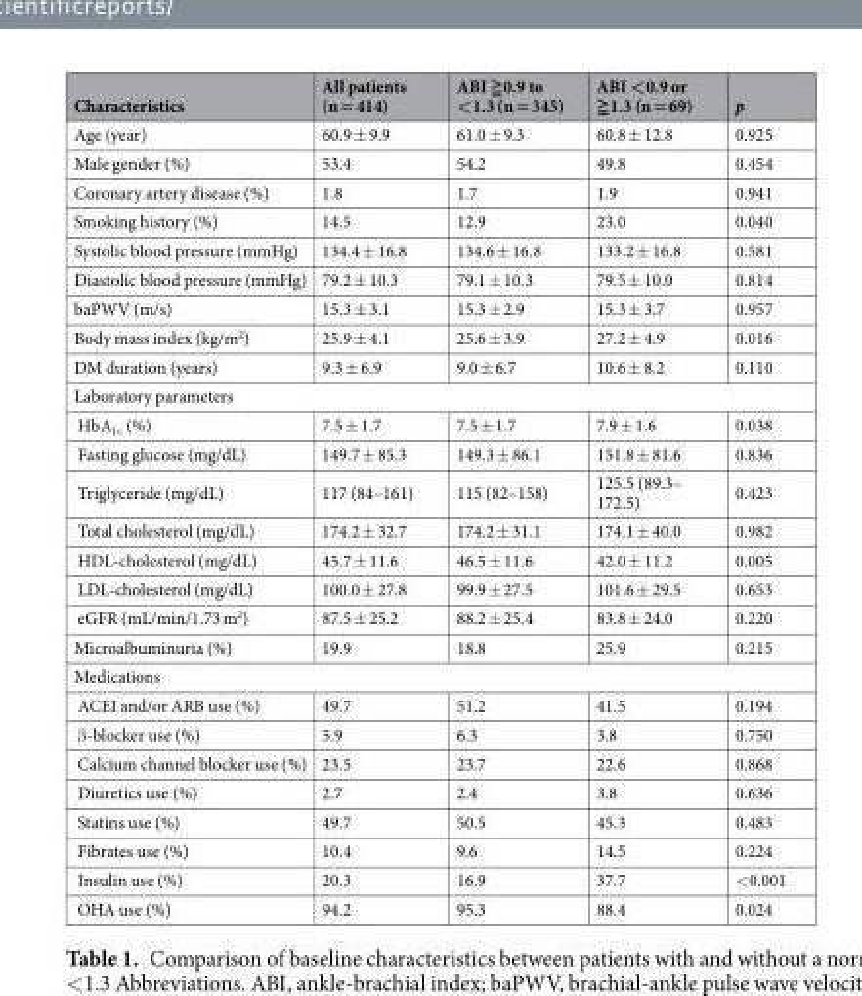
<table><thead><tr><td>Characteristics</td><td>All patients (n = 414)</td><td>ABI ≧0.9 to &lt;1.3 (n = 345)</td><td>ABI &lt;0.9 or ≧1.3 (n = 69)</td><td>p</td></tr></thead><tbody><tr><td>Age (year)</td><td>60.9 ± 9.9</td><td>61.0 ± 9.3</td><td>60.8 ± 12.8</td><td>0.925</td></tr><tr><td>Male gender (%)</td><td>53.4</td><td>54.2</td><td>49.8</td><td>0.454</td></tr><tr><td>Coronary artery disease (%)</td><td>1.8</td><td>1.7</td><td>1.9</td><td>0.941</td></tr><tr><td>Smoking history (%)</td><td>14.5</td><td>12.9</td><td>23.0</td><td>0.040</td></tr><tr><td>Systolic blood pressure (mmHg)</td><td>134.4 ± 16.8</td><td>134.6 ± 16.8</td><td>133.2 ± 16.8</td><td>0.581</td></tr><tr><td>Diastolic blood pressure (mmHg)</td><td>79.2 ± 10.3</td><td>79.1 ± 10.3</td><td>79.5 ± 10.0</td><td>0.814</td></tr><tr><td>baPWV (m/s)</td><td>15.3 ± 3.1</td><td>15.3 ± 2.9</td><td>15.3 ± 3.7</td><td>0.957</td></tr><tr><td>Body mass index (kg/m<sup>2</sup>)</td><td>25.9 ± 4.1</td><td>25.6 ± 3.9</td><td>27.2 ± 4.9</td><td>0.016</td></tr><tr><td>DM duration (years)</td><td>9.3 ± 6.9</td><td>9.0 ± 6.7</td><td>10.6 ± 8.2</td><td>0.110</td></tr><tr><td colspan="5">Laboratory parameters</td></tr><tr><td>HbA<sub>1c</sub> (%)</td><td>7.5 ± 1.7</td><td>7.5 ± 1.7</td><td>7.9 ± 1.6</td><td>0.038</td></tr><tr><td>Fasting glucose (mg/dL)</td><td>149.7 ± 85.3</td><td>149.3 ± 86.1</td><td>151.8 ± 81.6</td><td>0.836</td></tr><tr><td>Triglyceride (mg/dL)</td><td>117 (84–161)</td><td>115 (82–158)</td><td>125.5 (89.3– 172.5)</td><td>0.423</td></tr><tr><td>Total cholesterol (mg/dL)</td><td>174.2 ± 32.7</td><td>174.2 ± 31.1</td><td>174.1 ± 40.0</td><td>0.982</td></tr><tr><td>HDL-cholesterol (mg/dL)</td><td>45.7 ± 11.6</td><td>46.5 ± 11.6</td><td>42.0 ± 11.2</td><td>0.005</td></tr><tr><td>LDL-cholesterol (mg/dL)</td><td>100.0 ± 27.8</td><td>99.9 ± 27.5</td><td>101.6 ± 29.5</td><td>0.653</td></tr><tr><td>eGFR (mL/min/1.73 m<sup>2</sup>)</td><td>87.5 ± 25.2</td><td>88.2 ± 25.4</td><td>83.8 ± 24.0</td><td>0.220</td></tr><tr><td>Microalbuminuria (%)</td><td>19.9</td><td>18.8</td><td>25.9</td><td>0.215</td></tr><tr><td colspan="5">Medications</td></tr><tr><td>ACEI and/or ARB use (%)</td><td>49.7</td><td>51.2</td><td>41.5</td><td>0.194</td></tr><tr><td>β-blocker use (%)</td><td>5.9</td><td>6.3</td><td>3.8</td><td>0.750</td></tr><tr><td>Calcium channel blocker use (%)</td><td>23.5</td><td>23.7</td><td>22.6</td><td>0.868</td></tr><tr><td>Diuretics use (%)</td><td>2.7</td><td>2.4</td><td>3.8</td><td>0.636</td></tr><tr><td>Statins use (%)</td><td>49.7</td><td>50.5</td><td>45.3</td><td>0.483</td></tr><tr><td>Fibrates use (%)</td><td>10.4</td><td>9.6</td><td>14.5</td><td>0.224</td></tr><tr><td>Insulin use (%)</td><td>20.3</td><td>16.9</td><td>37.7</td><td>&lt;0.001</td></tr><tr><td>OHA use (%)</td><td>94.2</td><td>95.3</td><td>88.4</td><td>0.024</td></tr></tbody></table>